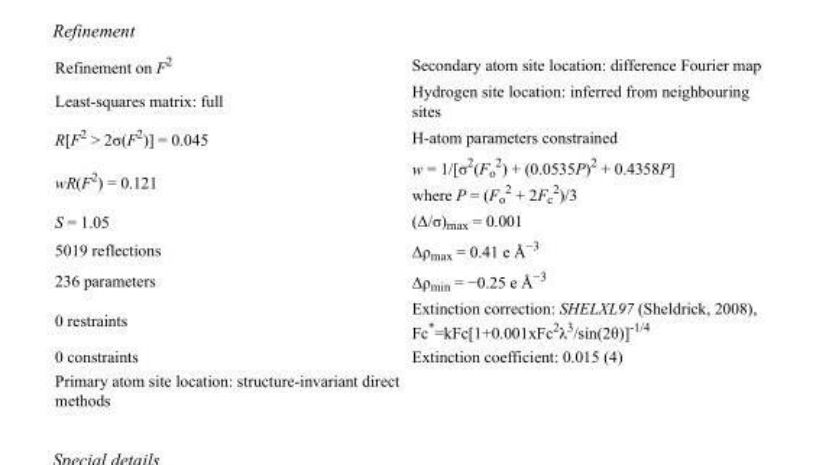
<table><tbody><tr><td>Refinement on F<sup>2</sup></td><td>Secondary atom site location: difference Fourier map</td></tr><tr><td>Least-squares matrix: full</td><td>Hydrogen site location: inferred from neighbouring sites</td></tr><tr><td>R[F<sup>2</sup> &gt; 2σ(F<sup>2</sup>)] = 0.045</td><td>H-atom parameters constrained</td></tr><tr><td>wR(F<sup>2</sup>) = 0.121</td><td>w = 1/[σ<sup>2</sup>(F<sub>o</sub> <sup>2</sup>) + (0.0535P)<sup>2</sup> + 0.4358P] where P = (F<sub>o</sub> <sup>2</sup> + 2F<sub>c</sub> <sup>2</sup>)/3</td></tr><tr><td>S = 1.05</td><td>(Δ/σ)<sub>max</sub> = 0.001</td></tr><tr><td>5019 reflections</td><td>Δρ<sub>max</sub> = 0.41 e Å<sup>−3</sup></td></tr><tr><td>236 parameters</td><td>Δρ<sub>min</sub> = −0.25 e Å<sup>−3</sup></td></tr><tr><td>0 restraints</td><td>Extinction correction: SHELXL97 (Sheldrick, 2008), Fc*=kFc[1+0.001xFc<sup>2</sup>λ<sup>3</sup>/sin(2θ)]<sup>-1/4</sup></td></tr><tr><td>0 constraints</td><td>Extinction coefficient: 0.015 (4)</td></tr><tr><td>Primary atom site location: structure-invariant direct methods</td><td></td></tr></tbody></table>